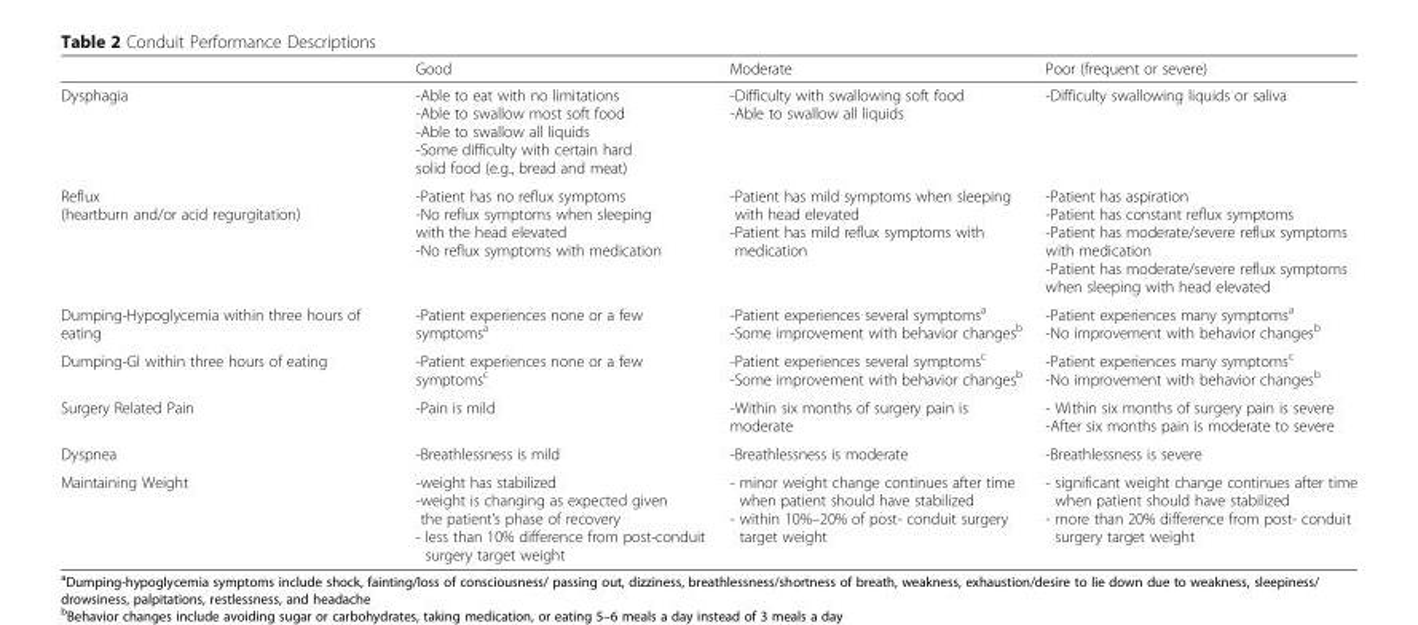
<table><thead><tr><td></td><td>Good</td><td>Moderate</td><td>Poor (frequent or severe)</td></tr></thead><tbody><tr><td>Dysphagia</td><td>-Able to eat with no limitations -Able to swallow most soft food -Able to swallow all liquids -Some difficulty with certain hard solid food (e.g., bread and meat)</td><td>-Difficulty with swallowing soft food -Able to swallow all liquids</td><td>-Difficulty swallowing liquids or saliva</td></tr><tr><td>Reflux (heartburn and/or acid regurgitation)</td><td>-Patient has no reflux symptoms -No reflux symptoms when sleeping with the head elevated -No reflux symptoms with medication</td><td>-Patient has mild symptoms when sleeping with head elevated -Patient has mild reflux symptoms with medication</td><td>-Patient has aspiration -Patient has constant reflux symptoms -Patient has moderate/severe reflux symptoms with medication -Patient has moderate/severe reflux symptoms when sleeping with head elevated</td></tr><tr><td>Dumping-Hypoglycemia within three hours of eating</td><td>-Patient experiences none or a few symptoms<sup>a</sup></td><td>-Patient experiences several symptoms<sup>a</sup> -Some improvement with behavior changes<sup>b</sup></td><td>-Patient experiences many symptoms<sup>a</sup> -No improvement with behavior changes<sup>b</sup></td></tr><tr><td>Dumping-GI within three hours of eating</td><td>-Patient experiences none or a few symptoms<sup>c</sup></td><td>-Patient experiences several symptoms<sup>c</sup> -Some improvement with behavior changes<sup>b</sup></td><td>-Patient experiences many symptoms<sup>c</sup> -No improvement with behavior changes<sup>b</sup></td></tr><tr><td>Surgery Related Pain</td><td>-Pain is mild</td><td>-Within six months of surgery pain is moderate</td><td>- Within six months of surgery pain is severe -After six months pain is moderate to severe</td></tr><tr><td>Dyspnea</td><td>-Breathlessness is mild</td><td>-Breathlessness is moderate</td><td>-Breathlessness is severe</td></tr><tr><td>Maintaining Weight</td><td>-weight has stabilized -weight is changing as expected given the patient’s phase of recovery - less than 10% difference from post-conduit surgery target weight</td><td>- minor weight change continues after time when patient should have stabilized - within 10%–20% of post- conduit surgery target weight</td><td>- significant weight change continues after time when patient should have stabilized - more than 20% difference from post- conduit surgery target weight</td></tr></tbody></table>